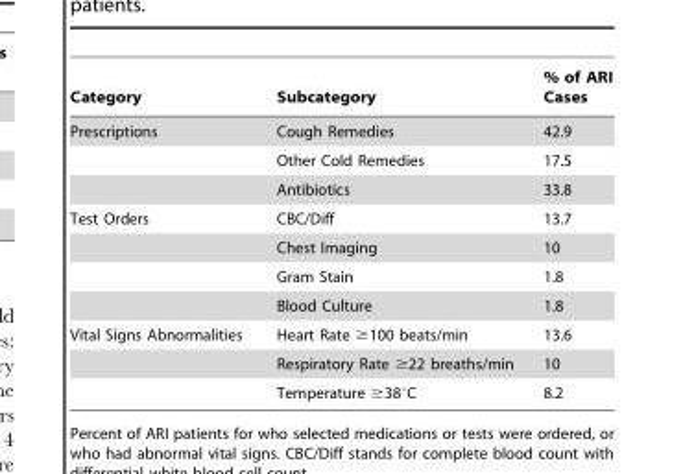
<table><thead><tr><td>Category</td><td>Subcategory</td><td>% of ARI Cases</td></tr></thead><tbody><tr><td rowspan="3">Prescriptions</td><td>Cough Remedies</td><td>42.9</td></tr><tr><td>Other Cold Remedies</td><td>17.5</td></tr><tr><td>Antibiotics</td><td>33.8</td></tr><tr><td rowspan="4">Test Orders</td><td>CBC/Diff</td><td>13.7</td></tr><tr><td>Chest Imaging</td><td>10</td></tr><tr><td>Gram Stain</td><td>1.8</td></tr><tr><td>Blood Culture</td><td>1.8</td></tr><tr><td rowspan="3">Vital Signs Abnormalities</td><td>Heart Rate ≥100 beats/min</td><td>13.6</td></tr><tr><td>Respiratory Rate ≥22 breaths/min</td><td>10</td></tr><tr><td>Temperature ≥38°C</td><td>8.2</td></tr></tbody></table>